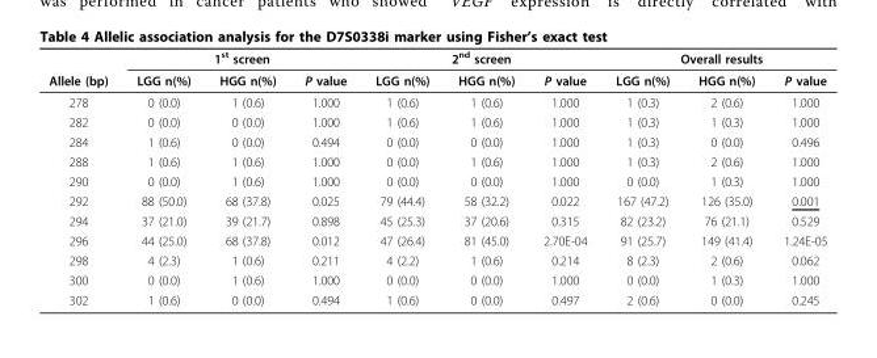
<table><thead><tr><td rowspan="2">Allele (bp)</td><td colspan="3">1<sup>st</sup> screen</td><td colspan="3">2<sup>nd</sup> screen</td><td colspan="3">Overall results</td></tr><tr><td>LGG n(%)</td><td>HGG n(%)</td><td>P value</td><td>LGG n(%)</td><td>HGG n(%)</td><td>P value</td><td>LGG n(%)</td><td>HGG n(%)</td><td>P value</td></tr></thead><tbody><tr><td>278</td><td>0 (0.0)</td><td>1 (0.6)</td><td>1.000</td><td>1 (0.6)</td><td>1 (0.6)</td><td>1.000</td><td>1 (0.3)</td><td>2 (0.6)</td><td>1.000</td></tr><tr><td>282</td><td>0 (0.0)</td><td>0 (0.0)</td><td>1.000</td><td>1 (0.6)</td><td>1 (0.6)</td><td>1.000</td><td>1 (0.3)</td><td>1 (0.3)</td><td>1.000</td></tr><tr><td>284</td><td>1 (0.6)</td><td>0 (0.0)</td><td>0.494</td><td>0 (0.0)</td><td>0 (0.0)</td><td>1.000</td><td>1 (0.3)</td><td>0 (0.0)</td><td>0.496</td></tr><tr><td>288</td><td>1 (0.6)</td><td>1 (0.6)</td><td>1.000</td><td>0 (0.0)</td><td>1 (0.6)</td><td>1.000</td><td>1 (0.3)</td><td>2 (0.6)</td><td>1.000</td></tr><tr><td>290</td><td>0 (0.0)</td><td>1 (0.6)</td><td>1.000</td><td>0 (0.0)</td><td>0 (0.0)</td><td>1.000</td><td>0 (0.0)</td><td>1 (0.3)</td><td>1.000</td></tr><tr><td>292</td><td>88 (50.0)</td><td>68 (37.8)</td><td>0.025</td><td>79 (44.4)</td><td>58 (32.2)</td><td>0.022</td><td>167 (47.2)</td><td>126 (35.0)</td><td>0.001</td></tr><tr><td>294</td><td>37 (21.0)</td><td>39 (21.7)</td><td>0.898</td><td>45 (25.3)</td><td>37 (20.6)</td><td>0.315</td><td>82 (23.2)</td><td>76 (21.1)</td><td>0.529</td></tr><tr><td>296</td><td>44 (25.0)</td><td>68 (37.8)</td><td>0.012</td><td>47 (26.4)</td><td>81 (45.0)</td><td>2.70E-04</td><td>91 (25.7)</td><td>149 (41.4)</td><td>1.24E-05</td></tr><tr><td>298</td><td>4 (2.3)</td><td>1 (0.6)</td><td>0.211</td><td>4 (2.2)</td><td>1 (0.6)</td><td>0.214</td><td>8 (2.3)</td><td>2 (0.6)</td><td>0.062</td></tr><tr><td>300</td><td>0 (0.0)</td><td>1 (0.6)</td><td>1.000</td><td>0 (0.0)</td><td>0 (0.0)</td><td>1.000</td><td>0 (0.0)</td><td>1 (0.3)</td><td>1.000</td></tr><tr><td>302</td><td>1 (0.6)</td><td>0 (0.0)</td><td>0.494</td><td>1 (0.6)</td><td>0 (0.0)</td><td>0.497</td><td>2 (0.6)</td><td>0 (0.0)</td><td>0.245</td></tr></tbody></table>